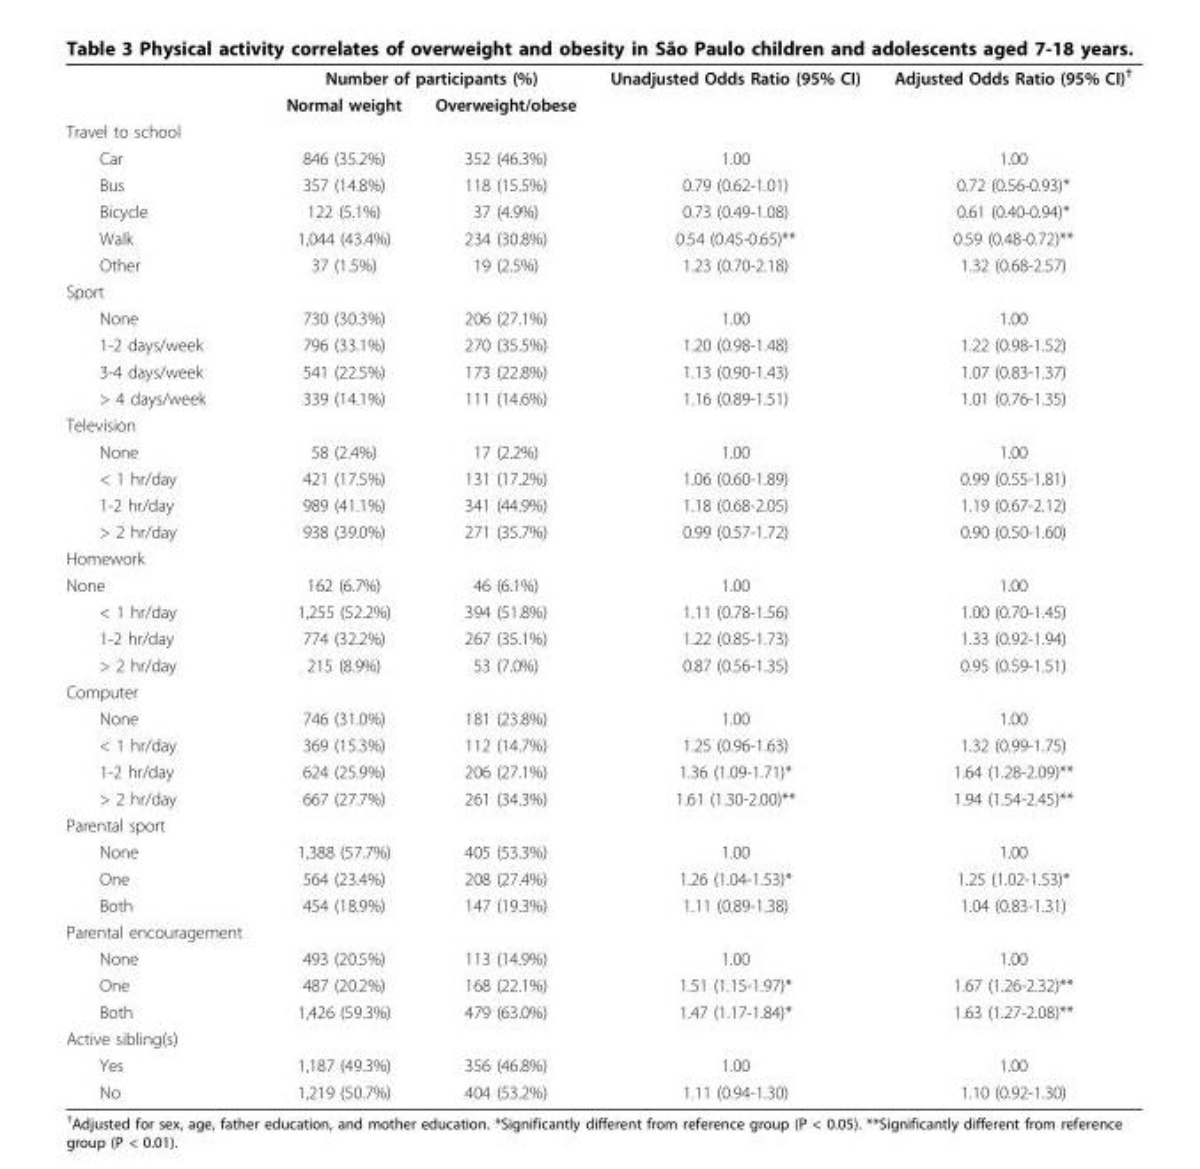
<table><thead><tr><td rowspan="2"></td><td colspan="2">Number of participants (%)</td><td rowspan="2">Unadjusted Odds Ratio (95% CI)</td><td rowspan="2">Adjusted Odds Ratio (95% CI)<sup>†</sup></td></tr><tr><td>Normal weight</td><td>Overweight/obese</td></tr></thead><tbody><tr><td colspan="5">Travel to school</td></tr><tr><td>Car</td><td>846 (35.2%)</td><td>352 (46.3%)</td><td>1.00</td><td>1.00</td></tr><tr><td>Bus</td><td>357 (14.8%)</td><td>118 (15.5%)</td><td>0.79 (0.62-1.01)</td><td>0.72 (0.56-0.93)*</td></tr><tr><td>Bicycle</td><td>122 (5.1%)</td><td>37 (4.9%)</td><td>0.73 (0.49-1.08)</td><td>0.61 (0.40-0.94)*</td></tr><tr><td>Walk</td><td>1,044 (43.4%)</td><td>234 (30.8%)</td><td>0.54 (0.45-0.65)**</td><td>0.59 (0.48-0.72)**</td></tr><tr><td>Other</td><td>37 (1.5%)</td><td>19 (2.5%)</td><td>1.23 (0.70-2.18)</td><td>1.32 (0.68-2.57)</td></tr><tr><td colspan="5">Sport</td></tr><tr><td>None</td><td>730 (30.3%)</td><td>206 (27.1%)</td><td>1.00</td><td>1.00</td></tr><tr><td>1-2 days/week</td><td>796 (33.1%)</td><td>270 (35.5%)</td><td>1.20 (0.98-1.48)</td><td>1.22 (0.98-1.52)</td></tr><tr><td>3-4 days/week</td><td>541 (22.5%)</td><td>173 (22.8%)</td><td>1.13 (0.90-1.43)</td><td>1.07 (0.83-1.37)</td></tr><tr><td>&gt; 4 days/week</td><td>339 (14.1%)</td><td>111 (14.6%)</td><td>1.16 (0.89-1.51)</td><td>1.01 (0.76-1.35)</td></tr><tr><td colspan="5">Television</td></tr><tr><td>None</td><td>58 (2.4%)</td><td>17 (2.2%)</td><td>1.00</td><td>1.00</td></tr><tr><td>&lt; 1 hr/day</td><td>421 (17.5%)</td><td>131 (17.2%)</td><td>1.06 (0.60-1.89)</td><td>0.99 (0.55-1.81)</td></tr><tr><td>1-2 hr/day</td><td>989 (41.1%)</td><td>341 (44.9%)</td><td>1.18 (0.68-2.05)</td><td>1.19 (0.67-2.12)</td></tr><tr><td>&gt; 2 hr/day</td><td>938 (39.0%)</td><td>271 (35.7%)</td><td>0.99 (0.57-1.72)</td><td>0.90 (0.50-1.60)</td></tr><tr><td colspan="5">Homework</td></tr><tr><td>None</td><td>162 (6.7%)</td><td>46 (6.1%)</td><td>1.00</td><td>1.00</td></tr><tr><td>&lt; 1 hr/day</td><td>1,255 (52.2%)</td><td>394 (51.8%)</td><td>1.11 (0.78-1.56)</td><td>1.00 (0.70-1.45)</td></tr><tr><td>1-2 hr/day</td><td>774 (32.2%)</td><td>267 (35.1%)</td><td>1.22 (0.85-1.73)</td><td>1.33 (0.92-1.94)</td></tr><tr><td>&gt; 2 hr/day</td><td>215 (8.9%)</td><td>53 (7.0%)</td><td>0.87 (0.56-1.35)</td><td>0.95 (0.59-1.51)</td></tr><tr><td colspan="5">Computer</td></tr><tr><td>None</td><td>746 (31.0%)</td><td>181 (23.8%)</td><td>1.00</td><td>1.00</td></tr><tr><td>&lt; 1 hr/day</td><td>369 (15.3%)</td><td>112 (14.7%)</td><td>1.25 (0.96-1.63)</td><td>1.32 (0.99-1.75)</td></tr><tr><td>1-2 hr/day</td><td>624 (25.9%)</td><td>206 (27.1%)</td><td>1.36 (1.09-1.71)*</td><td>1.64 (1.28-2.09)**</td></tr><tr><td>&gt; 2 hr/day</td><td>667 (27.7%)</td><td>261 (34.3%)</td><td>1.61 (1.30-2.00)**</td><td>1.94 (1.54-2.45)**</td></tr><tr><td colspan="5">Parental sport</td></tr><tr><td>None</td><td>1,388 (57.7%)</td><td>405 (53.3%)</td><td>1.00</td><td>1.00</td></tr><tr><td>One</td><td>564 (23.4%)</td><td>208 (27.4%)</td><td>1.26 (1.04-1.53)*</td><td>1.25 (1.02-1.53)*</td></tr><tr><td>Both</td><td>454 (18.9%)</td><td>147 (19.3%)</td><td>1.11 (0.89-1.38)</td><td>1.04 (0.83-1.31)</td></tr><tr><td colspan="5">Parental encouragement</td></tr><tr><td>None</td><td>493 (20.5%)</td><td>113 (14.9%)</td><td>1.00</td><td>1.00</td></tr><tr><td>One</td><td>487 (20.2%)</td><td>168 (22.1%)</td><td>1.51 (1.15-1.97)*</td><td>1.67 (1.26-2.32)**</td></tr><tr><td>Both</td><td>1,426 (59.3%)</td><td>479 (63.0%)</td><td>1.47 (1.17-1.84)*</td><td>1.63 (1.27-2.08)**</td></tr><tr><td colspan="5">Active sibling(s)</td></tr><tr><td>Yes</td><td>1,187 (49.3%)</td><td>356 (46.8%)</td><td>1.00</td><td>1.00</td></tr><tr><td>No</td><td>1,219 (50.7%)</td><td>404 (53.2%)</td><td>1.11 (0.94-1.30)</td><td>1.10 (0.92-1.30)</td></tr></tbody></table>